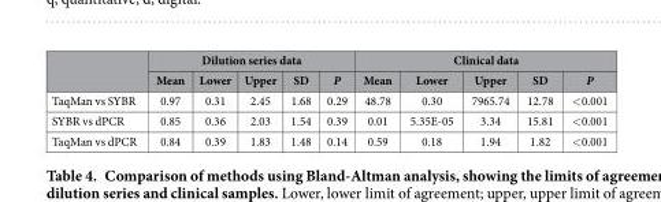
<table><thead><tr><td rowspan="2"></td><td colspan="5">Dilution series data</td><td colspan="5">Clinical data</td></tr><tr><td>Mean</td><td>Lower</td><td>Upper</td><td>SD</td><td>P</td><td>Mean</td><td>Lower</td><td>Upper</td><td>SD</td><td>P</td></tr></thead><tbody><tr><td>TaqMan vs SYBR</td><td>0.97</td><td>0.31</td><td>2.45</td><td>1.68</td><td>0.29</td><td>48.78</td><td>0.30</td><td>7965.74</td><td>12.78</td><td>&lt; 0.001</td></tr><tr><td>SYBR vs dPCR</td><td>0.85</td><td>0.36</td><td>2.03</td><td>1.54</td><td>0.39</td><td>0.01</td><td>5.35E-05</td><td>3.34</td><td>15.81</td><td>&lt; 0.001</td></tr><tr><td>TaqMan vs dPCR</td><td>0.84</td><td>0.39</td><td>1.83</td><td>1.48</td><td>0.14</td><td>0.59</td><td>0.18</td><td>1.94</td><td>1.82</td><td>&lt; 0.001</td></tr></tbody></table>